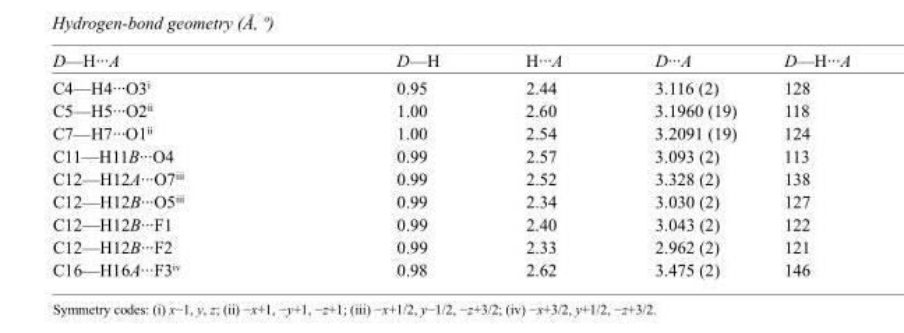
<table><tbody><tr><td>D—H···A</td><td>D—H</td><td>H···A</td><td>D···A</td><td>D—H···A</td></tr><tr><td>C4—H4···O3<sup>i</sup></td><td>0.95</td><td>2.44</td><td>3.116 (2)</td><td>128</td></tr><tr><td>C5—H5···O2<sup>ii</sup></td><td>1.00</td><td>2.60</td><td>3.1960 (19)</td><td>118</td></tr><tr><td>C7—H7···O1<sup>ii</sup></td><td>1.00</td><td>2.54</td><td>3.2091 (19)</td><td>124</td></tr><tr><td>C11—H11B···O4</td><td>0.99</td><td>2.57</td><td>3.093 (2)</td><td>113</td></tr><tr><td>C12—H12A···O7<sup>iii</sup></td><td>0.99</td><td>2.52</td><td>3.328 (2)</td><td>138</td></tr><tr><td>C12—H12B···O5<sup>iii</sup></td><td>0.99</td><td>2.34</td><td>3.030 (2)</td><td>127</td></tr><tr><td>C12—H12B···F1</td><td>0.99</td><td>2.40</td><td>3.043 (2)</td><td>122</td></tr><tr><td>C12—H12B···F2</td><td>0.99</td><td>2.33</td><td>2.962 (2)</td><td>121</td></tr><tr><td>C16—H16A···F3<sup>iv</sup></td><td>0.98</td><td>2.62</td><td>3.475 (2)</td><td>146</td></tr></tbody></table>